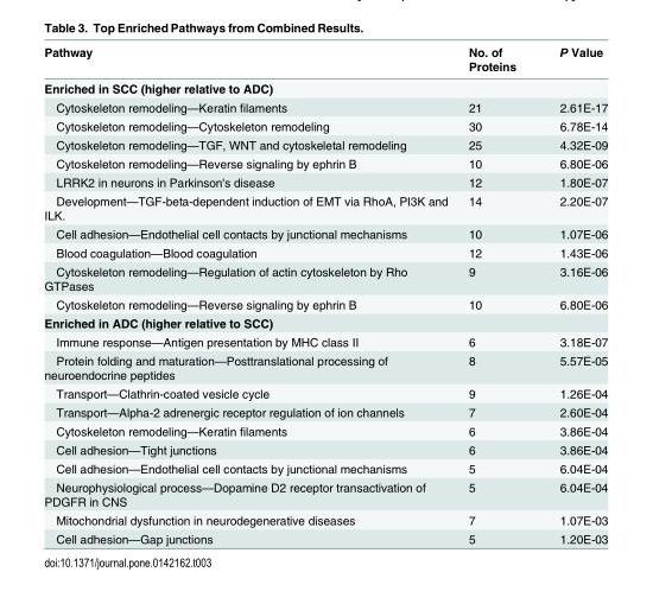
<table><thead><tr><td>Pathway</td><td>No. of Proteins</td><td>P Value</td></tr></thead><tbody><tr><td colspan="3">Enriched in SCC (higher relative to ADC)</td></tr><tr><td>Cytoskeleton remodeling—Keratin filaments</td><td>21</td><td>2.61E-17</td></tr><tr><td>Cytoskeleton remodeling—Cytoskeleton remodeling</td><td>30</td><td>6.78E-14</td></tr><tr><td>Cytoskeleton remodeling—TGF, WNT and cytoskeletal remodeling</td><td>25</td><td>4.32E-09</td></tr><tr><td>Cytoskeleton remodeling—Reverse signaling by ephrin B</td><td>10</td><td>6.80E-06</td></tr><tr><td>LRRK2 in neurons in Parkinson&#x27;s disease</td><td>12</td><td>1.80E-07</td></tr><tr><td>Development—TGF-beta-dependent induction of EMT via RhoA, PI3K and ILK.</td><td>14</td><td>2.20E-07</td></tr><tr><td>Cell adhesion—Endothelial cell contacts by junctional mechanisms</td><td>10</td><td>1.07E-06</td></tr><tr><td>Blood coagulation—Blood coagulation</td><td>12</td><td>1.43E-06</td></tr><tr><td>Cytoskeleton remodeling—Regulation of actin cytoskeleton by Rho GTPases</td><td>9</td><td>3.16E-06</td></tr><tr><td>Cytoskeleton remodeling—Reverse signaling by ephrin B</td><td>10</td><td>6.80E-06</td></tr><tr><td colspan="3">Enriched in ADC (higher relative to SCC)</td></tr><tr><td>Immune response—Antigen presentation by MHC class II</td><td>6</td><td>3.18E-07</td></tr><tr><td>Protein folding and maturation—Posttranslational processing of neuroendocrine peptides</td><td>8</td><td>5.57E-05</td></tr><tr><td>Transport—Clathrin-coated vesicle cycle</td><td>9</td><td>1.26E-04</td></tr><tr><td>Transport—Alpha-2 adrenergic receptor regulation of ion channels</td><td>7</td><td>2.60E-04</td></tr><tr><td>Cytoskeleton remodeling—Keratin filaments</td><td>6</td><td>3.86E-04</td></tr><tr><td>Cell adhesion—Tight junctions</td><td>6</td><td>3.86E-04</td></tr><tr><td>Cell adhesion—Endothelial cell contacts by junctional mechanisms</td><td>5</td><td>6.04E-04</td></tr><tr><td>Neurophysiological process—Dopamine D2 receptor transactivation of PDGFR in CNS</td><td>5</td><td>6.04E-04</td></tr><tr><td>Mitochondrial dysfunction in neurodegenerative diseases</td><td>7</td><td>1.07E-03</td></tr><tr><td>Cell adhesion—Gap junctions</td><td>5</td><td>1.20E-03</td></tr></tbody></table>